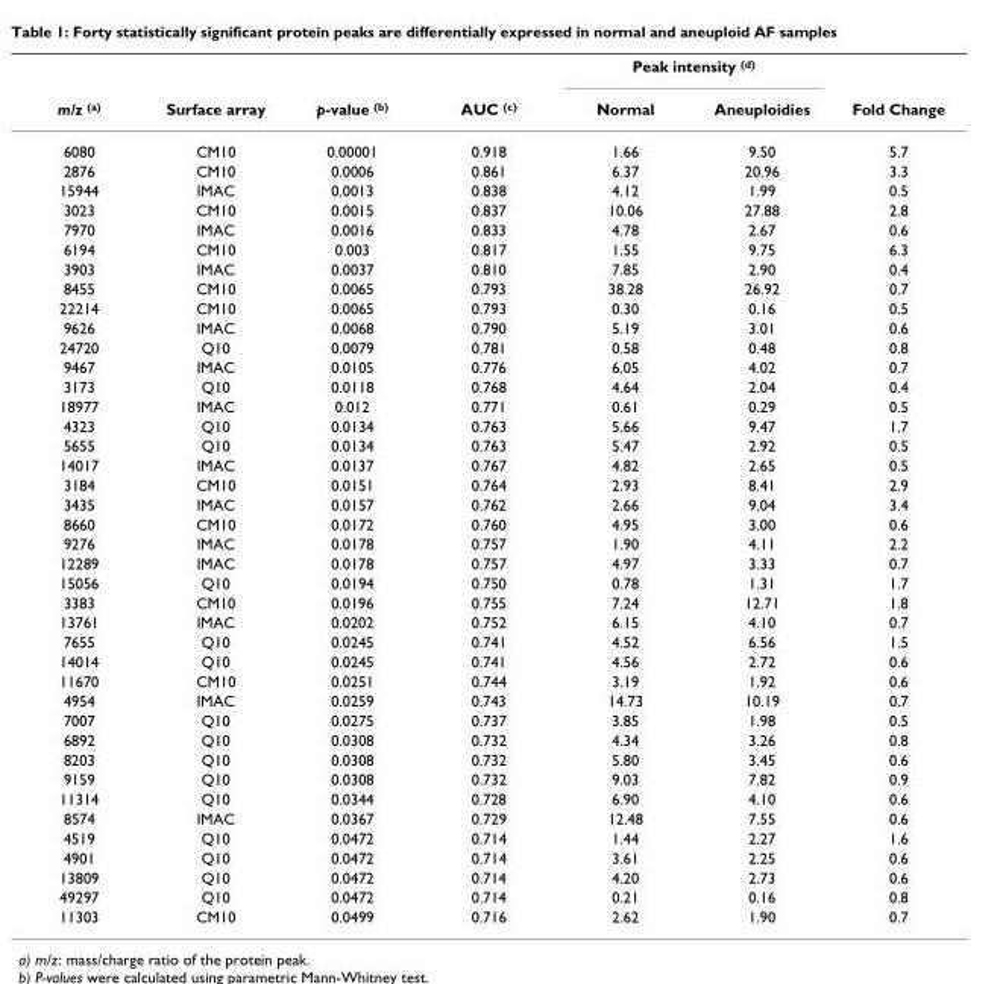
<table><thead><tr><td rowspan="2">m/z <sup>(a)</sup></td><td rowspan="2">Surface array</td><td rowspan="2">p-value <sup>(b)</sup></td><td rowspan="2">AUC <sup>(c)</sup></td><td colspan="2">Peak intensity <sup>(d)</sup></td><td rowspan="2">Fold Change</td></tr><tr><td>Normal</td><td>Aneuploidies</td></tr></thead><tbody><tr><td>6080</td><td>CM10</td><td>0.00001</td><td>0.918</td><td>1.66</td><td>9.50</td><td>5.7</td></tr><tr><td>2876</td><td>CM10</td><td>0.0006</td><td>0.861</td><td>6.37</td><td>20.96</td><td>3.3</td></tr><tr><td>15944</td><td>IMAC</td><td>0.0013</td><td>0.838</td><td>4.12</td><td>1.99</td><td>0.5</td></tr><tr><td>3023</td><td>CM10</td><td>0.0015</td><td>0.837</td><td>10.06</td><td>27.88</td><td>2.8</td></tr><tr><td>7970</td><td>IMAC</td><td>0.0016</td><td>0.833</td><td>4.78</td><td>2.67</td><td>0.6</td></tr><tr><td>6194</td><td>CM10</td><td>0.003</td><td>0.817</td><td>1.55</td><td>9.75</td><td>6.3</td></tr><tr><td>3903</td><td>IMAC</td><td>0.0037</td><td>0.810</td><td>7.85</td><td>2.90</td><td>0.4</td></tr><tr><td>8455</td><td>CM10</td><td>0.0065</td><td>0.793</td><td>38.28</td><td>26.92</td><td>0.7</td></tr><tr><td>22214</td><td>CM10</td><td>0.0065</td><td>0.793</td><td>0.30</td><td>0.16</td><td>0.5</td></tr><tr><td>9626</td><td>IMAC</td><td>0.0068</td><td>0.790</td><td>5.19</td><td>3.01</td><td>0.6</td></tr><tr><td>24720</td><td>Q10</td><td>0.0079</td><td>0.781</td><td>0.58</td><td>0.48</td><td>0.8</td></tr><tr><td>9467</td><td>IMAC</td><td>0.0105</td><td>0.776</td><td>6.05</td><td>4.02</td><td>0.7</td></tr><tr><td>3173</td><td>Q10</td><td>0.0118</td><td>0.768</td><td>4.64</td><td>2.04</td><td>0.4</td></tr><tr><td>18977</td><td>IMAC</td><td>0.012</td><td>0.771</td><td>0.61</td><td>0.29</td><td>0.5</td></tr><tr><td>4323</td><td>Q10</td><td>0.0134</td><td>0.763</td><td>5.66</td><td>9.47</td><td>1.7</td></tr><tr><td>5655</td><td>Q10</td><td>0.0134</td><td>0.763</td><td>5.47</td><td>2.92</td><td>0.5</td></tr><tr><td>14017</td><td>IMAC</td><td>0.0137</td><td>0.767</td><td>4.82</td><td>2.65</td><td>0.5</td></tr><tr><td>3184</td><td>CM10</td><td>0.0151</td><td>0.764</td><td>2.93</td><td>8.41</td><td>2.9</td></tr><tr><td>3435</td><td>IMAC</td><td>0.0157</td><td>0.762</td><td>2.66</td><td>9.04</td><td>3.4</td></tr><tr><td>8660</td><td>CM10</td><td>0.0172</td><td>0.760</td><td>4.95</td><td>3.00</td><td>0.6</td></tr><tr><td>9276</td><td>IMAC</td><td>0.0178</td><td>0.757</td><td>1.90</td><td>4.11</td><td>2.2</td></tr><tr><td>12289</td><td>IMAC</td><td>0.0178</td><td>0.757</td><td>4.97</td><td>3.33</td><td>0.7</td></tr><tr><td>15056</td><td>Q10</td><td>0.0194</td><td>0.750</td><td>0.78</td><td>1.31</td><td>1.7</td></tr><tr><td>3383</td><td>CM10</td><td>0.0196</td><td>0.755</td><td>7.24</td><td>12.71</td><td>1.8</td></tr><tr><td>13761</td><td>IMAC</td><td>0.0202</td><td>0.752</td><td>6.15</td><td>4.10</td><td>0.7</td></tr><tr><td>7655</td><td>Q10</td><td>0.0245</td><td>0.741</td><td>4.52</td><td>6.56</td><td>1.5</td></tr><tr><td>14014</td><td>Q10</td><td>0.0245</td><td>0.741</td><td>4.56</td><td>2.72</td><td>0.6</td></tr><tr><td>11670</td><td>CM10</td><td>0.0251</td><td>0.744</td><td>3.19</td><td>1.92</td><td>0.6</td></tr><tr><td>4954</td><td>IMAC</td><td>0.0259</td><td>0.743</td><td>14.73</td><td>10.19</td><td>0.7</td></tr><tr><td>7007</td><td>Q10</td><td>0.0275</td><td>0.737</td><td>3.85</td><td>1.98</td><td>0.5</td></tr><tr><td>6892</td><td>Q10</td><td>0.0308</td><td>0.732</td><td>4.34</td><td>3.26</td><td>0.8</td></tr><tr><td>8203</td><td>Q10</td><td>0.0308</td><td>0.732</td><td>5.80</td><td>3.45</td><td>0.6</td></tr><tr><td>9159</td><td>Q10</td><td>0.0308</td><td>0.732</td><td>9.03</td><td>7.82</td><td>0.9</td></tr><tr><td>11314</td><td>Q10</td><td>0.0344</td><td>0.728</td><td>6.90</td><td>4.10</td><td>0.6</td></tr><tr><td>8574</td><td>IMAC</td><td>0.0367</td><td>0.729</td><td>12.48</td><td>7.55</td><td>0.6</td></tr><tr><td>4519</td><td>Q10</td><td>0.0472</td><td>0.714</td><td>1.44</td><td>2.27</td><td>1.6</td></tr><tr><td>4901</td><td>Q10</td><td>0.0472</td><td>0.714</td><td>3.61</td><td>2.25</td><td>0.6</td></tr><tr><td>13809</td><td>Q10</td><td>0.0472</td><td>0.714</td><td>4.20</td><td>2.73</td><td>0.6</td></tr><tr><td>49297</td><td>Q10</td><td>0.0472</td><td>0.714</td><td>0.21</td><td>0.16</td><td>0.8</td></tr><tr><td>11303</td><td>CM10</td><td>0.0499</td><td>0.716</td><td>2.62</td><td>1.90</td><td>0.7</td></tr></tbody></table>